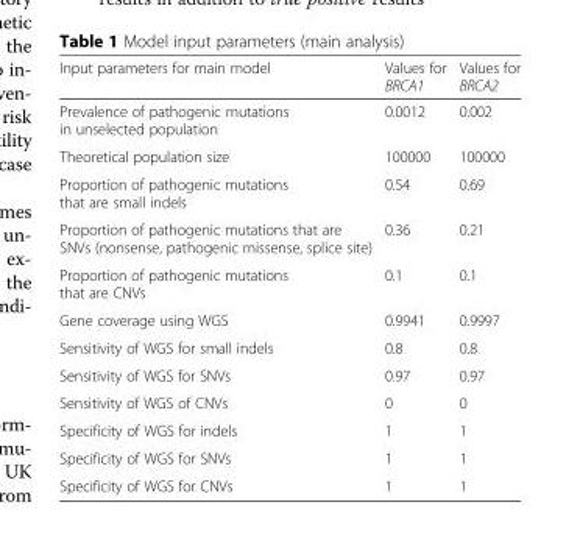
<table><thead><tr><td>Input parameters for main model</td><td>Values for BRCA1</td><td>Values for BRCA2</td></tr></thead><tbody><tr><td>Prevalence of pathogenic mutations in unselected population</td><td>0.0012</td><td>0.002</td></tr><tr><td>Theoretical population size</td><td>100000</td><td>100000</td></tr><tr><td>Proportion of pathogenic mutations that are small indels</td><td>0.54</td><td>0.69</td></tr><tr><td>Proportion of pathogenic mutations that are SNVs (nonsense, pathogenic missense, splice site)</td><td>0.36</td><td>0.21</td></tr><tr><td>Proportion of pathogenic mutations that are CNVs</td><td>0.1</td><td>0.1</td></tr><tr><td>Gene coverage using WGS</td><td>0.9941</td><td>0.9997</td></tr><tr><td>Sensitivity of WGS for small indels</td><td>0.8</td><td>0.8</td></tr><tr><td>Sensitivity of WGS for SNVs</td><td>0.97</td><td>0.97</td></tr><tr><td>Sensitivity of WGS of CNVs</td><td>0</td><td>0</td></tr><tr><td>Specificity of WGS for indels</td><td>1</td><td>1</td></tr><tr><td>Specificity of WGS for SNVs</td><td>1</td><td>1</td></tr><tr><td>Specificity of WGS for CNVs</td><td>1</td><td>1</td></tr></tbody></table>